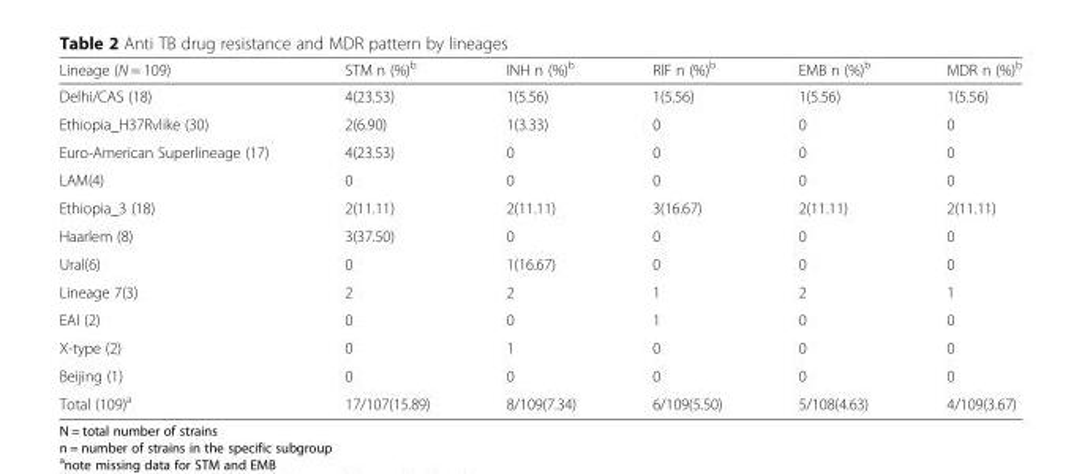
<table><thead><tr><td>Lineage (N = 109)</td><td>STM n (%)<sup>b</sup></td><td>INH n (%)<sup>b</sup></td><td>RIF n (%)<sup>b</sup></td><td>EMB n (%)<sup>b</sup></td><td>MDR n (%)<sup>b</sup></td></tr></thead><tbody><tr><td>Delhi/CAS (18)</td><td>4(23.53)</td><td>1(5.56)</td><td>1(5.56)</td><td>1(5.56)</td><td>1(5.56)</td></tr><tr><td>Ethiopia_H37Rvlike (30)</td><td>2(6.90)</td><td>1(3.33)</td><td>0</td><td>0</td><td>0</td></tr><tr><td>Euro-American Superlineage (17)</td><td>4(23.53)</td><td>0</td><td>0</td><td>0</td><td>0</td></tr><tr><td>LAM(4)</td><td>0</td><td>0</td><td>0</td><td>0</td><td>0</td></tr><tr><td>Ethiopia_3 (18)</td><td>2(11.11)</td><td>2(11.11)</td><td>3(16.67)</td><td>2(11.11)</td><td>2(11.11)</td></tr><tr><td>Haarlem (8)</td><td>3(37.50)</td><td>0</td><td>0</td><td>0</td><td>0</td></tr><tr><td>Ural(6)</td><td>0</td><td>1(16.67)</td><td>0</td><td>0</td><td>0</td></tr><tr><td>Lineage 7(3)</td><td>2</td><td>2</td><td>1</td><td>2</td><td>1</td></tr><tr><td>EAI (2)</td><td>0</td><td>0</td><td>1</td><td>0</td><td>0</td></tr><tr><td>X-type (2)</td><td>0</td><td>1</td><td>0</td><td>0</td><td>0</td></tr><tr><td>Beijing (1)</td><td>0</td><td>0</td><td>0</td><td>0</td><td>0</td></tr><tr><td>Total (109)<sup>a</sup></td><td>17/107(15.89)</td><td>8/109(7.34)</td><td>6/109(5.50)</td><td>5/108(4.63)</td><td>4/109(3.67)</td></tr></tbody></table>